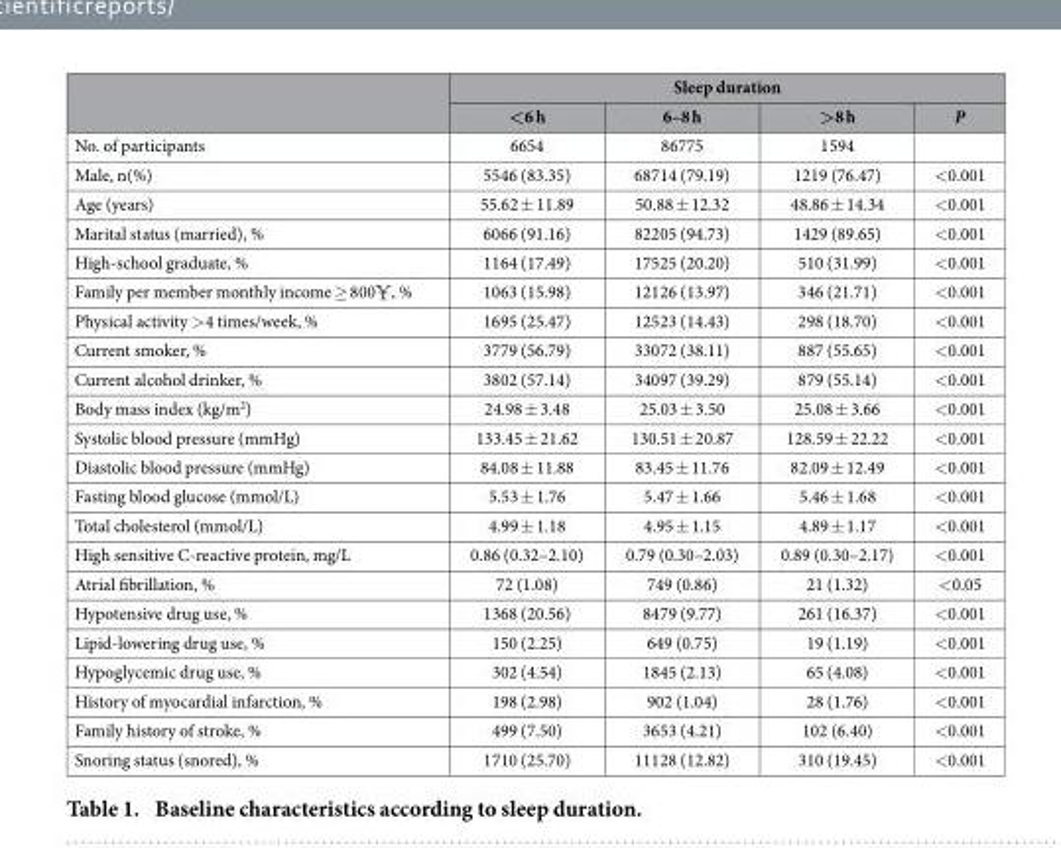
<table><thead><tr><td rowspan="2"></td><td colspan="4">Sleep duration</td></tr><tr><td>&lt;6 h</td><td>6–8 h</td><td>&gt;8 h</td><td>P</td></tr></thead><tbody><tr><td>No. of participants</td><td>6654</td><td>86775</td><td>1594</td><td></td></tr><tr><td>Male, n(%)</td><td>5546 (83.35)</td><td>68714 (79.19)</td><td>1219 (76.47)</td><td>&lt; 0.001</td></tr><tr><td>Age (years)</td><td>55.62 ± 11.89</td><td>50.88 ± 12.32</td><td>48.86 ± 14.34</td><td>&lt; 0.001</td></tr><tr><td>Marital status (married), %</td><td>6066 (91.16)</td><td>82205 (94.73)</td><td>1429 (89.65)</td><td>&lt; 0.001</td></tr><tr><td>High-school graduate, %</td><td>1164 (17.49)</td><td>17525 (20.20)</td><td>510 (31.99)</td><td>&lt; 0.001</td></tr><tr><td>Family per member monthly income ≥ 800 , %</td><td>1063 (15.98)</td><td>12126 (13.97)</td><td>346 (21.71)</td><td>&lt; 0.001</td></tr><tr><td>Physical activity &gt; 4 times/week, %</td><td>1695 (25.47)</td><td>12523 (14.43)</td><td>298 (18.70)</td><td>&lt; 0.001</td></tr><tr><td>Current smoker, %</td><td>3779 (56.79)</td><td>33072 (38.11)</td><td>887 (55.65)</td><td>&lt; 0.001</td></tr><tr><td>Current alcohol drinker, %</td><td>3802 (57.14)</td><td>34097 (39.29)</td><td>879 (55.14)</td><td>&lt; 0.001</td></tr><tr><td>Body mass index (kg/m<sup>2</sup>)</td><td>24.98 ± 3.48</td><td>25.03 ± 3.50</td><td>25.08 ± 3.66</td><td>&lt; 0.001</td></tr><tr><td>Systolic blood pressure (mmHg)</td><td>133.45 ± 21.62</td><td>130.51 ± 20.87</td><td>128.59 ± 22.22</td><td>&lt; 0.001</td></tr><tr><td>Diastolic blood pressure (mmHg)</td><td>84.08 ± 11.88</td><td>83.45 ± 11.76</td><td>82.09 ± 12.49</td><td>&lt; 0.001</td></tr><tr><td>Fasting blood glucose (mmol/L)</td><td>5.53 ± 1.76</td><td>5.47 ± 1.66</td><td>5.46 ± 1.68</td><td>&lt; 0.001</td></tr><tr><td>Total cholesterol (mmol/L)</td><td>4.99 ± 1.18</td><td>4.95 ± 1.15</td><td>4.89 ± 1.17</td><td>&lt; 0.001</td></tr><tr><td>High sensitive C-reactive protein, mg/L</td><td>0.86 (0.32–2.10)</td><td>0.79 (0.30–2.03)</td><td>0.89 (0.30–2.17)</td><td>&lt; 0.001</td></tr><tr><td>Atrial fibrillation, %</td><td>72 (1.08)</td><td>749 (0.86)</td><td>21 (1.32)</td><td>&lt; 0.05</td></tr><tr><td>Hypotensive drug use, %</td><td>1368 (20.56)</td><td>8479 (9.77)</td><td>261 (16.37)</td><td>&lt; 0.001</td></tr><tr><td>Lipid-lowering drug use, %</td><td>150 (2.25)</td><td>649 (0.75)</td><td>19 (1.19)</td><td>&lt; 0.001</td></tr><tr><td>Hypoglycemic drug use, %</td><td>302 (4.54)</td><td>1845 (2.13)</td><td>65 (4.08)</td><td>&lt; 0.001</td></tr><tr><td>History of myocardial infarction, %</td><td>198 (2.98)</td><td>902 (1.04)</td><td>28 (1.76)</td><td>&lt; 0.001</td></tr><tr><td>Family history of stroke, %</td><td>499 (7.50)</td><td>3653 (4.21)</td><td>102 (6.40)</td><td>&lt; 0.001</td></tr><tr><td>Snoring status (snored), %</td><td>1710 (25.70)</td><td>11128 (12.82)</td><td>310 (19.45)</td><td>&lt; 0.001</td></tr></tbody></table>